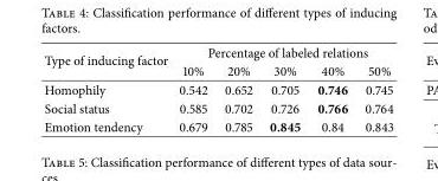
<table><thead><tr><td rowspan="2">Type of inducing factor</td><td colspan="5">Percentage of labeled relations</td></tr><tr><td>10%</td><td>20%</td><td>30%</td><td>40%</td><td>50%</td></tr></thead><tbody><tr><td>Homophily</td><td>0.542</td><td>0.652</td><td>0.705</td><td>0.746</td><td>0.745</td></tr><tr><td>Social status</td><td>0.585</td><td>0.702</td><td>0.726</td><td>0.766</td><td>0.764</td></tr><tr><td>Emotion tendency</td><td>0.679</td><td>0.785</td><td>0.845</td><td>0.84</td><td>0.843</td></tr></tbody></table>